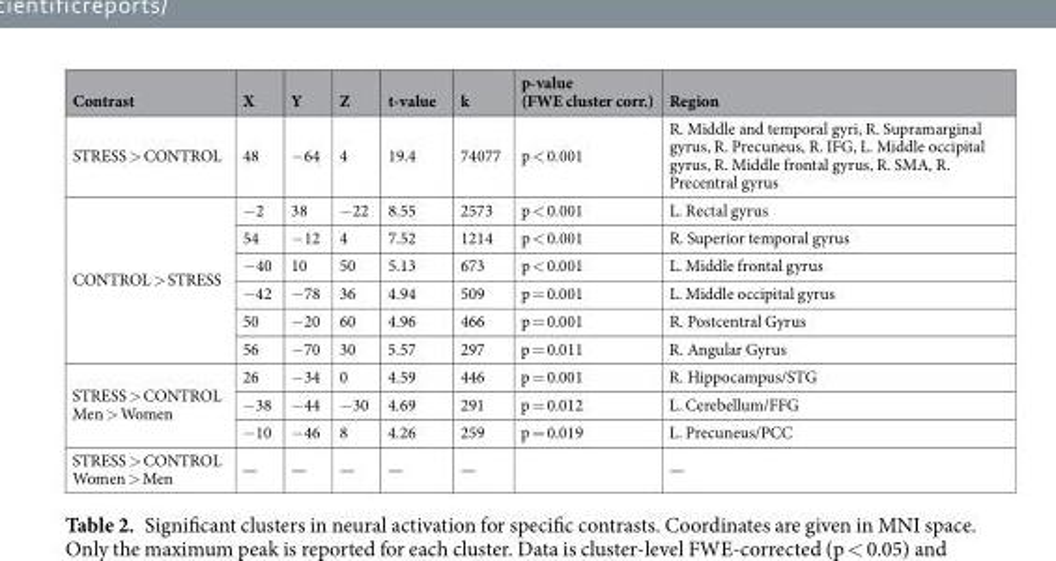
<table><thead><tr><td>Contrast</td><td>X</td><td>Y</td><td>Z</td><td>t-value</td><td>k</td><td>p-value (FWE cluster corr.)</td><td>Region</td></tr></thead><tbody><tr><td>STRESS &gt; CONTROL</td><td>48</td><td>−64</td><td>4</td><td>19.4</td><td>74077</td><td>p &lt; 0.001</td><td>R. Middle and temporal gyri, R. Supramarginal gyrus, R. Precuneus, R. IFG, L. Middle occipital gyrus, R. Middle frontal gyrus, R. SMA, R. Precentral gyrus</td></tr><tr><td rowspan="6">CONTROL &gt; STRESS</td><td>−2</td><td>38</td><td>−22</td><td>8.55</td><td>2573</td><td>p &lt; 0.001</td><td>L. Rectal gyrus</td></tr><tr><td>54</td><td>−12</td><td>4</td><td>7.52</td><td>1214</td><td>p &lt; 0.001</td><td>R. Superior temporal gyrus</td></tr><tr><td>−40</td><td>10</td><td>50</td><td>5.13</td><td>673</td><td>p &lt; 0.001</td><td>L. Middle frontal gyrus</td></tr><tr><td>−42</td><td>−78</td><td>36</td><td>4.94</td><td>509</td><td>p = 0.001</td><td>L. Middle occipital gyrus</td></tr><tr><td>50</td><td>−20</td><td>60</td><td>4.96</td><td>466</td><td>p = 0.001</td><td>R. Postcentral Gyrus</td></tr><tr><td>56</td><td>−70</td><td>30</td><td>5.57</td><td>297</td><td>p = 0.011</td><td>R. Angular Gyrus</td></tr><tr><td rowspan="3">STRESS &gt; CONTROL Men &gt; Women</td><td>26</td><td>−34</td><td>0</td><td>4.59</td><td>446</td><td>p = 0.001</td><td>R. Hippocampus/STG</td></tr><tr><td>−38</td><td>−44</td><td>−30</td><td>4.69</td><td>291</td><td>p = 0.012</td><td>L. Cerebellum/FFG</td></tr><tr><td>−10</td><td>−46</td><td>8</td><td>4.26</td><td>259</td><td>p = 0.019</td><td>L. Precuneus/PCC</td></tr><tr><td>STRESS &gt; CONTROL Women &gt; Men</td><td>—</td><td>—</td><td>—</td><td>—</td><td>—</td><td></td><td>—</td></tr></tbody></table>